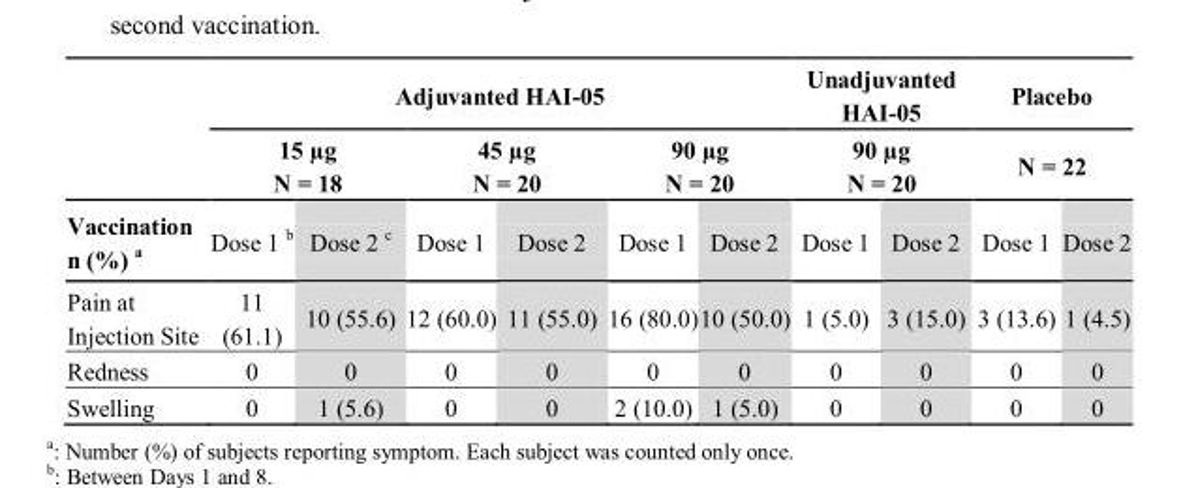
<table><thead><tr><td rowspan="3">Vaccination n (%) <sup>a</sup></td><td colspan="6">Adjuvanted HAI-05</td><td rowspan="2" colspan="2">Unadjuvanted HAI-05 90 µg N = 20</td><td rowspan="2" colspan="2">Placebo N = 22</td></tr><tr><td colspan="2">15 µg N = 18</td><td colspan="2">45 µg N = 20</td><td colspan="2">90 µg N = 20</td></tr><tr><td>Dose 1 <sup>b</sup></td><td>Dose 2 <sup>c</sup></td><td>Dose 1</td><td>Dose 2</td><td>Dose 1</td><td>Dose 2</td><td>Dose 1</td><td>Dose 2</td><td>Dose 1</td><td>Dose 2</td></tr></thead><tbody><tr><td>Pain at Injection Site</td><td>11 (61.1)</td><td>10 (55.6)</td><td>12 (60.0)</td><td>11 (55.0)</td><td>16 (80.0)</td><td>10 (50.0)</td><td>1 (5.0)</td><td>3 (15.0)</td><td>3 (13.6)</td><td>1 (4.5)</td></tr><tr><td>Redness</td><td>0</td><td>0</td><td>0</td><td>0</td><td>0</td><td>0</td><td>0</td><td>0</td><td>0</td><td>0</td></tr><tr><td>Swelling</td><td>0</td><td>1 (5.6)</td><td>0</td><td>0</td><td>2 (10.0)</td><td>1 (5.0)</td><td>0</td><td>0</td><td>0</td><td>0</td></tr></tbody></table>